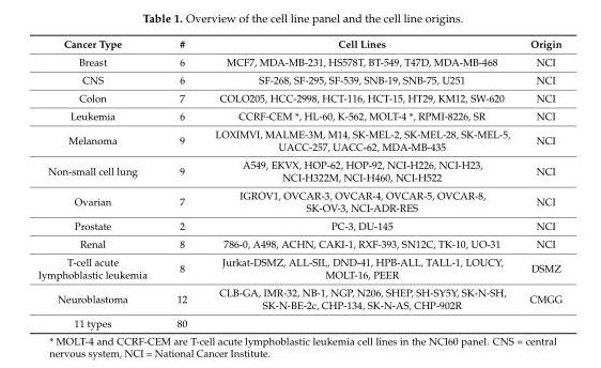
<table><thead><tr><td>Cancer Type</td><td>#</td><td>Cell Lines</td><td>Origin</td></tr></thead><tbody><tr><td>Breast</td><td>6</td><td>MCF7, MDA-MB-231, HS578T, BT-549, T47D, MDA-MB-468</td><td>NCI</td></tr><tr><td>CNS</td><td>6</td><td>SF-268, SF-295, SF-539, SNB-19, SNB-75, U251</td><td>NCI</td></tr><tr><td>Colon</td><td>7</td><td>COLO205, HCC-2998, HCT-116, HCT-15, HT29, KM12, SW-620</td><td>NCI</td></tr><tr><td>Leukemia</td><td>6</td><td>CCRF-CEM *, HL-60, K-562, MOLT-4 *, RPMI-8226, SR</td><td>NCI</td></tr><tr><td>Melanoma</td><td>9</td><td>LOXIMVI, MALME-3M, M14, SK-MEL-2, SK-MEL-28, SK-MEL-5, UACC-257, UACC-62, MDA-MB-435</td><td>NCI</td></tr><tr><td>Non-small cell lung</td><td>9</td><td>A549, EKVX, HOP-62, HOP-92, NCI-H226, NCI-H23, NCI-H322M, NCI-H460, NCI-H522</td><td>NCI</td></tr><tr><td>Ovarian</td><td>7</td><td>IGROV1, OVCAR-3, OVCAR-4, OVCAR-5, OVCAR-8, SK-OV-3, NCI-ADR-RES</td><td>NCI</td></tr><tr><td>Prostate</td><td>2</td><td>PC-3, DU-145</td><td>NCI</td></tr><tr><td>Renal</td><td>8</td><td>786-0, A498, ACHN, CAKI-1, RXF-393, SN12C, TK-10, UO-31</td><td>NCI</td></tr><tr><td>T-cell acute lymphoblastic leukemia</td><td>8</td><td>Jurkat-DSMZ, ALL-SIL, DND-41, HPB-ALL, TALL-1, LOUCY, MOLT-16, PEER</td><td>DSMZ</td></tr><tr><td>Neuroblastoma</td><td>12</td><td>CLB-GA, IMR-32, NB-1, NGP, N206, SHEP, SH-SY5Y, SK-N-SH, SK-N-BE-2c, CHP-134, SK-N-AS, CHP-902R</td><td>CMGG</td></tr><tr><td>11 types</td><td>80</td><td></td><td></td></tr></tbody></table>